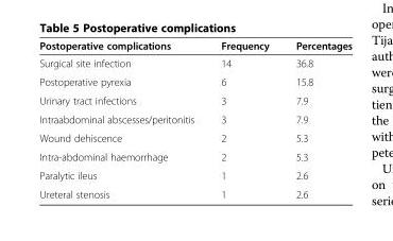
<table><thead><tr><td>Postoperative complications</td><td>Frequency</td><td>Percentages</td></tr></thead><tbody><tr><td>Surgical site infection</td><td>14</td><td>36.8</td></tr><tr><td>Postoperative pyrexia</td><td>6</td><td>15.8</td></tr><tr><td>Urinary tract infections</td><td>3</td><td>7.9</td></tr><tr><td>Intraabdominal abscesses/peritonitis</td><td>3</td><td>7.9</td></tr><tr><td>Wound dehiscence</td><td>2</td><td>5.3</td></tr><tr><td>Intra-abdominal haemorrhage</td><td>2</td><td>5.3</td></tr><tr><td>Paralytic ileus</td><td>1</td><td>2.6</td></tr><tr><td>Ureteral stenosis</td><td>1</td><td>2.6</td></tr></tbody></table>